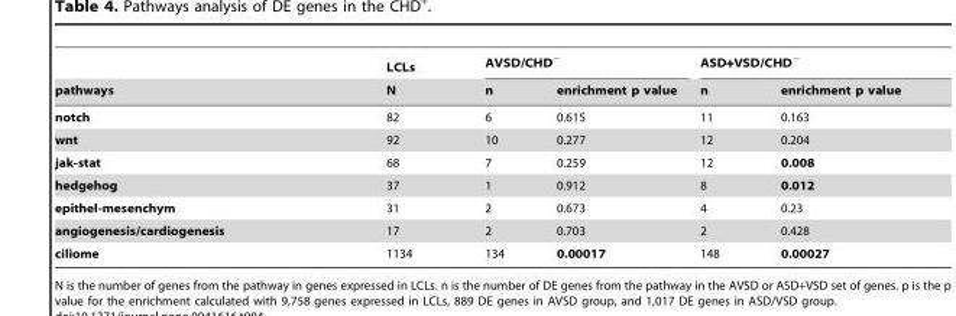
<table><thead><tr><td rowspan="2">pathways</td><td rowspan="2">LCLs N</td><td colspan="2">AVSD/CHD<sup>−</sup></td><td colspan="2">ASD+VSD/CHD<sup>−</sup></td></tr><tr><td>n</td><td>enrichment p value</td><td>n</td><td>enrichment p value</td></tr></thead><tbody><tr><td>notch</td><td>82</td><td>6</td><td>0.615</td><td>11</td><td>0.163</td></tr><tr><td>wnt</td><td>92</td><td>10</td><td>0.277</td><td>12</td><td>0.204</td></tr><tr><td>jak-stat</td><td>68</td><td>7</td><td>0.259</td><td>12</td><td>0.008</td></tr><tr><td>hedgehog</td><td>37</td><td>1</td><td>0.912</td><td>8</td><td>0.012</td></tr><tr><td>epithel-mesenchym</td><td>31</td><td>2</td><td>0.673</td><td>4</td><td>0.23</td></tr><tr><td>angiogenesis/cardiogenesis</td><td>17</td><td>2</td><td>0.703</td><td>2</td><td>0.428</td></tr><tr><td>ciliome</td><td>1134</td><td>134</td><td>0.00017</td><td>148</td><td>0.00027</td></tr></tbody></table>